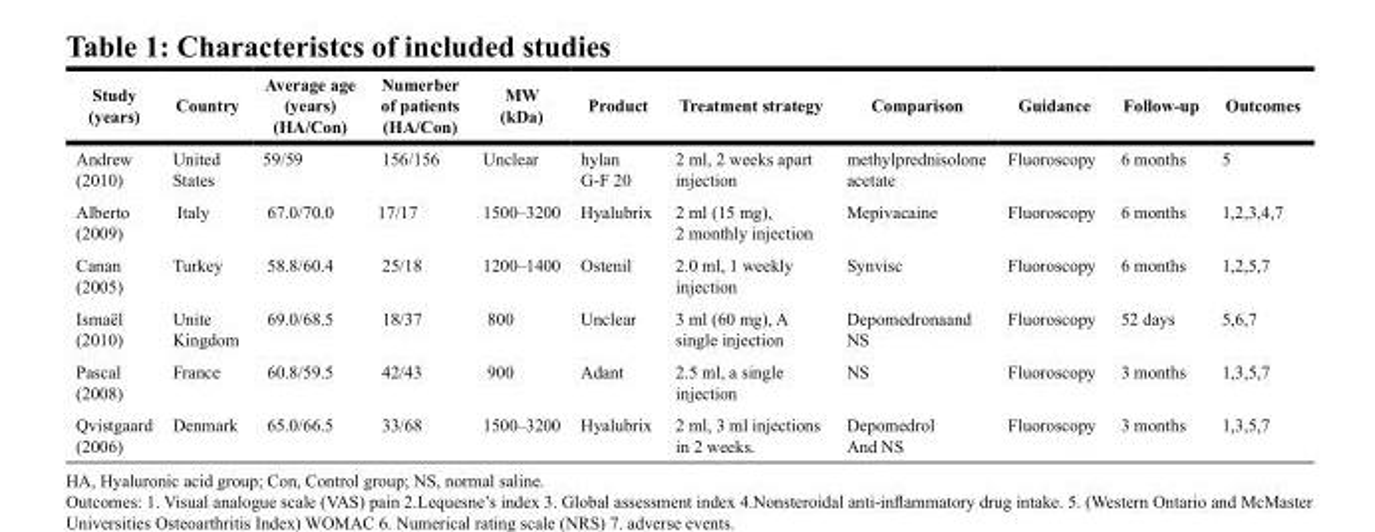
<table><thead><tr><td>Study (years)</td><td>Country</td><td>Average age (years) (HA/Con)</td><td>Numerber of patients (HA/Con)</td><td>MW (kDa)</td><td>Product</td><td>Treatment strategy</td><td>Comparison</td><td>Guidance</td><td>Follow-up</td><td>Outcomes</td></tr></thead><tbody><tr><td>Andrew (2010)</td><td>United States</td><td>59/59</td><td>156/156</td><td>Unclear</td><td>hylan G-F 20</td><td>2 ml, 2 weeks apart injection</td><td>methylprednisolone acetate</td><td>Fluoroscopy</td><td>6 months</td><td>5</td></tr><tr><td>Alberto (2009)</td><td>Italy</td><td>67.0/70.0</td><td>17/17</td><td>1500–3200</td><td>Hyalubrix</td><td>2 ml (15 mg), 2 monthly injection</td><td>Mepivacaine</td><td>Fluoroscopy</td><td>6 months</td><td>1,2,3,4,7</td></tr><tr><td>Canan (2005)</td><td>Turkey</td><td>58.8/60.4</td><td>25/18</td><td>1200–1400</td><td>Ostenil</td><td>2.0 ml, 1 weekly injection</td><td>Synvisc</td><td>Fluoroscopy</td><td>6 months</td><td>1,2,5,7</td></tr><tr><td>Ismaёl (2010)</td><td>Unite Kingdom</td><td>69.0/68.5</td><td>18/37</td><td>800</td><td>Unclear</td><td>3 ml (60 mg), A single injection</td><td>Depomedronaand NS</td><td>Fluoroscopy</td><td>52 days</td><td>5,6,7</td></tr><tr><td>Pascal (2008)</td><td>France</td><td>60.8/59.5</td><td>42/43</td><td>900</td><td>Adant</td><td>2.5 ml, a single injection</td><td>NS</td><td>Fluoroscopy</td><td>3 months</td><td>1,3,5,7</td></tr><tr><td>Qvistgaard (2006)</td><td>Denmark</td><td>65.0/66.5</td><td>33/68</td><td>1500–3200</td><td>Hyalubrix</td><td>2 ml, 3 ml injections in 2 weeks.</td><td>Depomedrol And NS</td><td>Fluoroscopy</td><td>3 months</td><td>1,3,5,7</td></tr></tbody></table>